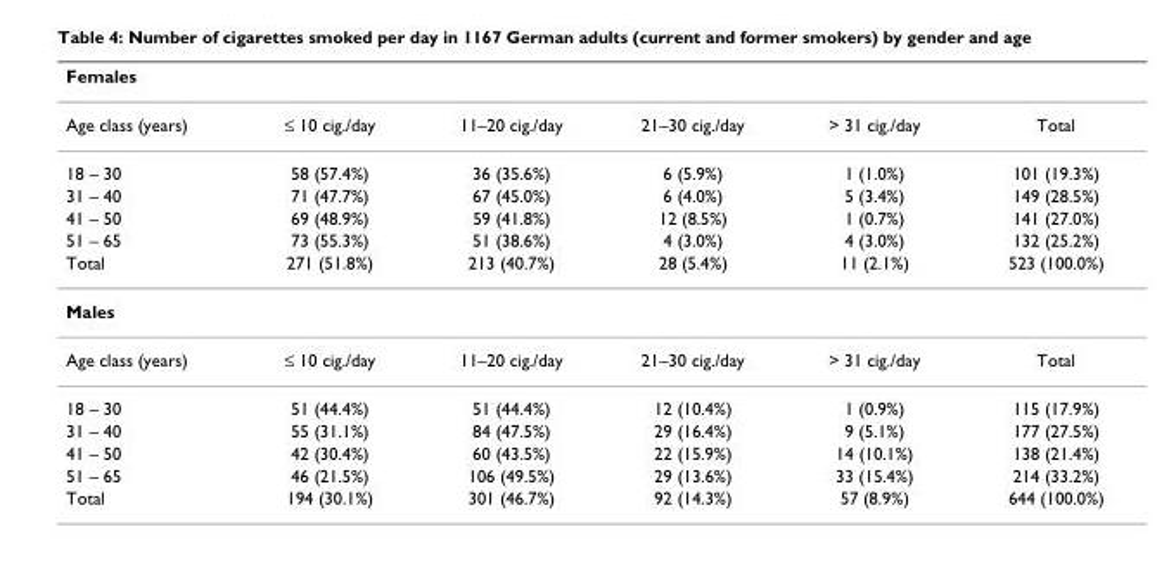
<table><thead><tr><td colspan="6">Females</td></tr><tr><td>Age class (years)</td><td>≤ 10 cig./day</td><td>11–20 cig./day</td><td>21–30 cig./day</td><td>&gt; 31 cig./day</td><td>Total</td></tr></thead><tbody><tr><td>18 – 30</td><td>58 (57.4%)</td><td>36 (35.6%)</td><td>6 (5.9%)</td><td>1 (1.0%)</td><td>101 (19.3%)</td></tr><tr><td>31 – 40</td><td>71 (47.7%)</td><td>67 (45.0%)</td><td>6 (4.0%)</td><td>5 (3.4%)</td><td>149 (28.5%)</td></tr><tr><td>41 – 50</td><td>69 (48.9%)</td><td>59 (41.8%)</td><td>12 (8.5%)</td><td>1 (0.7%)</td><td>141 (27.0%)</td></tr><tr><td>51 – 65</td><td>73 (55.3%)</td><td>51 (38.6%)</td><td>4 (3.0%)</td><td>4 (3.0%)</td><td>132 (25.2%)</td></tr><tr><td>Total</td><td>271 (51.8%)</td><td>213 (40.7%)</td><td>28 (5.4%)</td><td>11 (2.1%)</td><td>523 (100.0%)</td></tr><tr><td colspan="6">Males</td></tr><tr><td>Age class (years)</td><td>≤ 10 cig./day</td><td>11–20 cig./day</td><td>21–30 cig./day</td><td>&gt; 31 cig./day</td><td>Total</td></tr><tr><td>18 – 30</td><td>51 (44.4%)</td><td>51 (44.4%)</td><td>12 (10.4%)</td><td>1 (0.9%)</td><td>115 (17.9%)</td></tr><tr><td>31 – 40</td><td>55 (31.1%)</td><td>84 (47.5%)</td><td>29 (16.4%)</td><td>9 (5.1%)</td><td>177 (27.5%)</td></tr><tr><td>41 – 50</td><td>42 (30.4%)</td><td>60 (43.5%)</td><td>22 (15.9%)</td><td>14 (10.1%)</td><td>138 (21.4%)</td></tr><tr><td>51 – 65</td><td>46 (21.5%)</td><td>106 (49.5%)</td><td>29 (13.6%)</td><td>33 (15.4%)</td><td>214 (33.2%)</td></tr><tr><td>Total</td><td>194 (30.1%)</td><td>301 (46.7%)</td><td>92 (14.3%)</td><td>57 (8.9%)</td><td>644 (100.0%)</td></tr></tbody></table>